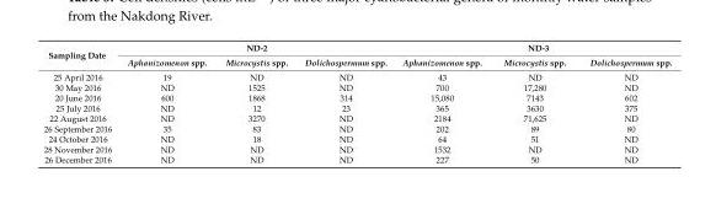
<table><thead><tr><td rowspan="2">Sampling Date</td><td colspan="3">ND-2</td><td colspan="3">ND-3</td></tr><tr><td>Aphanizomenon spp.</td><td>Microcystis spp.</td><td>Dolichospermum spp.</td><td>Aphanizomenon spp.</td><td>Microcystis spp.</td><td>Dolichospermum spp.</td></tr></thead><tbody><tr><td>25 April 2016</td><td>19</td><td>ND</td><td>ND</td><td>43</td><td>ND</td><td>ND</td></tr><tr><td>30 May 2016</td><td>ND</td><td>1525</td><td>ND</td><td>700</td><td>17,280</td><td>ND</td></tr><tr><td>20 June 2016</td><td>600</td><td>1868</td><td>314</td><td>15,080</td><td>7143</td><td>602</td></tr><tr><td>25 July 2016</td><td>ND</td><td>12</td><td>23</td><td>365</td><td>3630</td><td>375</td></tr><tr><td>22 August 2016</td><td>ND</td><td>3270</td><td>ND</td><td>2184</td><td>71,625</td><td>ND</td></tr><tr><td>26 September 2016</td><td>35</td><td>83</td><td>ND</td><td>202</td><td>89</td><td>80</td></tr><tr><td>24 October 2016</td><td>ND</td><td>18</td><td>ND</td><td>64</td><td>51</td><td>ND</td></tr><tr><td>28 November 2016</td><td>ND</td><td>ND</td><td>ND</td><td>1532</td><td>ND</td><td>ND</td></tr><tr><td>26 December 2016</td><td>ND</td><td>ND</td><td>ND</td><td>227</td><td>50</td><td>ND</td></tr></tbody></table>